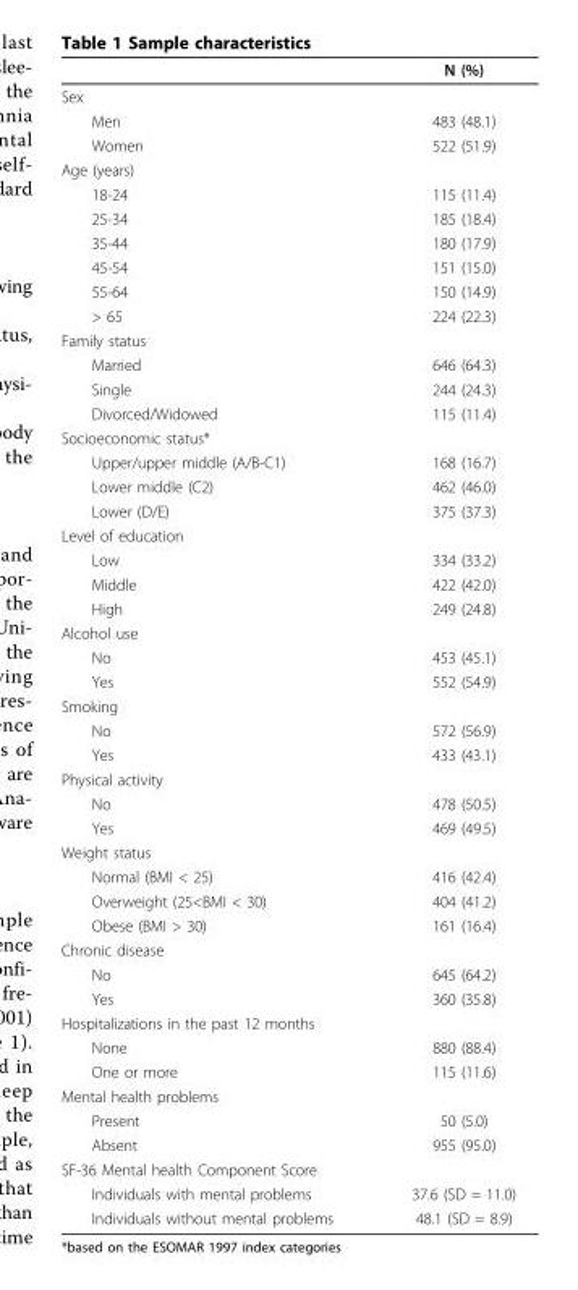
<table><thead><tr><td></td><td>N (%)</td></tr></thead><tbody><tr><td colspan="2">Sex</td></tr><tr><td>Men</td><td>483 (48.1)</td></tr><tr><td>Women</td><td>522 (51.9)</td></tr><tr><td colspan="2">Age (years)</td></tr><tr><td>18-24</td><td>115 (11.4)</td></tr><tr><td>25-34</td><td>185 (18.4)</td></tr><tr><td>35-44</td><td>180 (17.9)</td></tr><tr><td>45-54</td><td>151 (15.0)</td></tr><tr><td>55-64</td><td>150 (14.9)</td></tr><tr><td>&gt; 65</td><td>224 (22.3)</td></tr><tr><td colspan="2">Family status</td></tr><tr><td>Married</td><td>646 (64.3)</td></tr><tr><td>Single</td><td>244 (24.3)</td></tr><tr><td>Divorced/Widowed</td><td>115 (11.4)</td></tr><tr><td colspan="2">Socioeconomic status*</td></tr><tr><td>Upper/upper middle (A/B-C1)</td><td>168 (16.7)</td></tr><tr><td>Lower middle (C2)</td><td>462 (46.0)</td></tr><tr><td>Lower (D/E)</td><td>375 (37.3)</td></tr><tr><td colspan="2">Level of education</td></tr><tr><td>Low</td><td>334 (33.2)</td></tr><tr><td>Middle</td><td>422 (42.0)</td></tr><tr><td>High</td><td>249 (24.8)</td></tr><tr><td colspan="2">Alcohol use</td></tr><tr><td>No</td><td>453 (45.1)</td></tr><tr><td>Yes</td><td>552 (54.9)</td></tr><tr><td colspan="2">Smoking</td></tr><tr><td>No</td><td>572 (56.9)</td></tr><tr><td>Yes</td><td>433 (43.1)</td></tr><tr><td colspan="2">Physical activity</td></tr><tr><td>No</td><td>478 (50.5)</td></tr><tr><td>Yes</td><td>469 (49.5)</td></tr><tr><td colspan="2">Weight status</td></tr><tr><td>Normal (BMI &lt; 25)</td><td>416 (42.4)</td></tr><tr><td>Overweight (25&lt;BMI &lt; 30)</td><td>404 (41.2)</td></tr><tr><td>Obese (BMI &gt; 30)</td><td>161 (16.4)</td></tr><tr><td colspan="2">Chronic disease</td></tr><tr><td>No</td><td>645 (64.2)</td></tr><tr><td>Yes</td><td>360 (35.8)</td></tr><tr><td colspan="2">Hospitalizations in the past 12 months</td></tr><tr><td>None</td><td>880 (88.4)</td></tr><tr><td>One or more</td><td>115 (11.6)</td></tr><tr><td colspan="2">Mental health problems</td></tr><tr><td>Present</td><td>50 (5.0)</td></tr><tr><td>Absent</td><td>955 (95.0)</td></tr><tr><td colspan="2">SF-36 Mental health Component Score</td></tr><tr><td>Individuals with mental problems</td><td>37.6 (SD = 11.0)</td></tr><tr><td>Individuals without mental problems</td><td>48.1 (SD = 8.9)</td></tr></tbody></table>